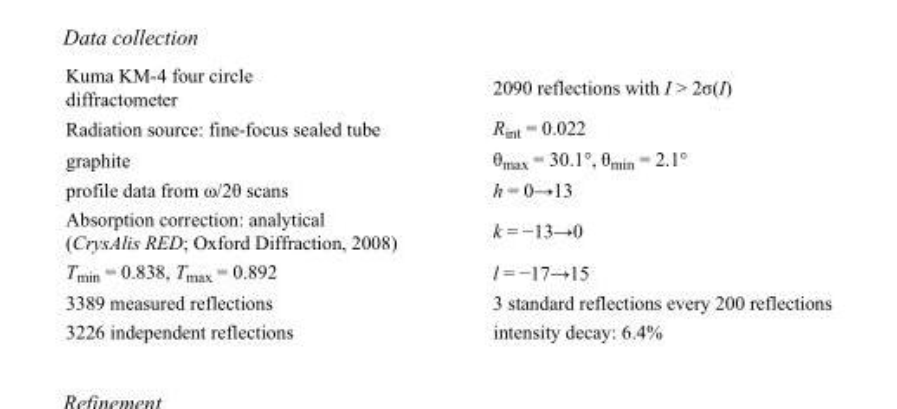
<table><tbody><tr><td>Kuma KM-4 four circle diffractometer</td><td>2090 reflections with I &gt; 2σ(I)</td></tr><tr><td>Radiation source: fine-focus sealed tube</td><td>R<sub>int</sub> = 0.022</td></tr><tr><td>graphite</td><td>θ<sub>max</sub> = 30.1°, θ<sub>min</sub> = 2.1°</td></tr><tr><td>profile data from ω/2θ scans</td><td>h = 0→13</td></tr><tr><td>Absorption correction: analytical (CrysAlis RED; Oxford Diffraction, 2008)</td><td>k = −13→0</td></tr><tr><td>T<sub>min</sub> = 0.838, T<sub>max</sub> = 0.892</td><td>l = −17→15</td></tr><tr><td>3389 measured reflections</td><td>3 standard reflections every 200 reflections</td></tr><tr><td>3226 independent reflections</td><td>intensity decay: 6.4%</td></tr></tbody></table>